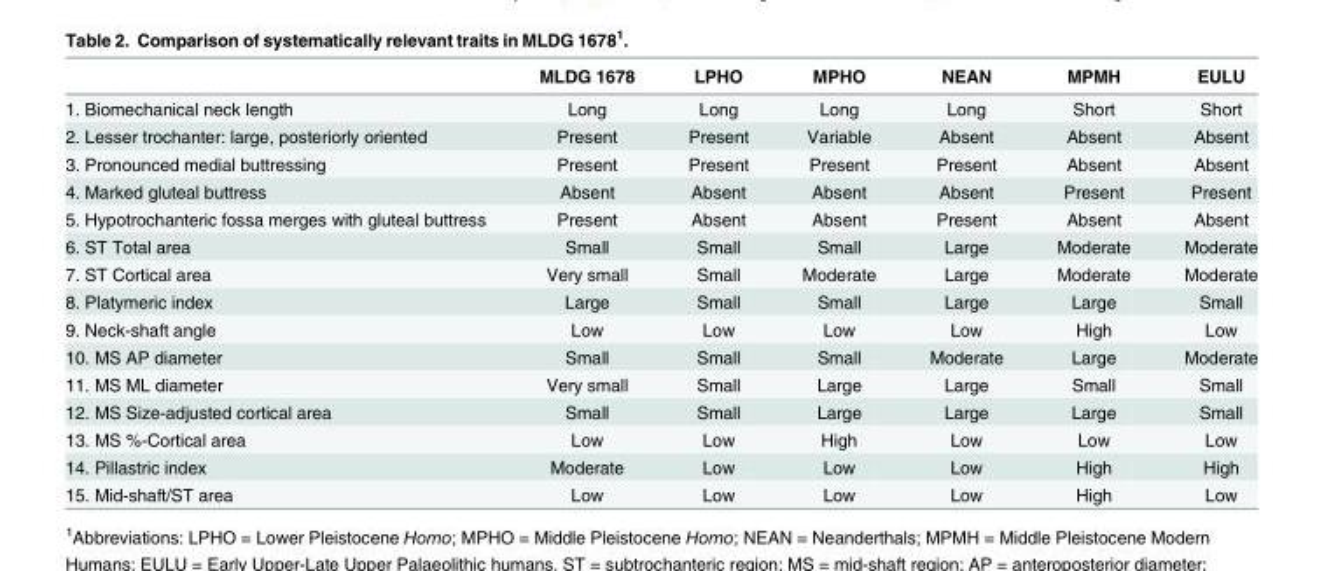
<table><thead><tr><td></td><td>MLDG 1678</td><td>LPHO</td><td>MPHO</td><td>NEAN</td><td>MPMH</td><td>EULU</td></tr></thead><tbody><tr><td>1. Biomechanical neck length</td><td>Long</td><td>Long</td><td>Long</td><td>Long</td><td>Short</td><td>Short</td></tr><tr><td>2. Lesser trochanter: large, posteriorly oriented</td><td>Present</td><td>Present</td><td>Variable</td><td>Absent</td><td>Absent</td><td>Absent</td></tr><tr><td>3. Pronounced medial buttressing</td><td>Present</td><td>Present</td><td>Present</td><td>Present</td><td>Absent</td><td>Absent</td></tr><tr><td>4. Marked gluteal buttress</td><td>Absent</td><td>Absent</td><td>Absent</td><td>Absent</td><td>Present</td><td>Present</td></tr><tr><td>5. Hypotrochanteric fossa merges with gluteal buttress</td><td>Present</td><td>Absent</td><td>Absent</td><td>Present</td><td>Absent</td><td>Absent</td></tr><tr><td>6. ST Total area</td><td>Small</td><td>Small</td><td>Small</td><td>Large</td><td>Moderate</td><td>Moderate</td></tr><tr><td>7. ST Cortical area</td><td>Very small</td><td>Small</td><td>Moderate</td><td>Large</td><td>Moderate</td><td>Moderate</td></tr><tr><td>8. Platymeric index</td><td>Large</td><td>Small</td><td>Small</td><td>Large</td><td>Large</td><td>Small</td></tr><tr><td>9. Neck-shaft angle</td><td>Low</td><td>Low</td><td>Low</td><td>Low</td><td>High</td><td>Low</td></tr><tr><td>10. MS AP diameter</td><td>Small</td><td>Small</td><td>Small</td><td>Moderate</td><td>Large</td><td>Moderate</td></tr><tr><td>11. MS ML diameter</td><td>Very small</td><td>Small</td><td>Large</td><td>Large</td><td>Small</td><td>Small</td></tr><tr><td>12. MS Size-adjusted cortical area</td><td>Small</td><td>Small</td><td>Large</td><td>Large</td><td>Large</td><td>Small</td></tr><tr><td>13. MS %-Cortical area</td><td>Low</td><td>Low</td><td>High</td><td>Low</td><td>Low</td><td>Low</td></tr><tr><td>14. Pillastric index</td><td>Moderate</td><td>Low</td><td>Low</td><td>Low</td><td>High</td><td>High</td></tr><tr><td>15. Mid-shaft/ST area</td><td>Low</td><td>Low</td><td>Low</td><td>Low</td><td>High</td><td>Low</td></tr></tbody></table>